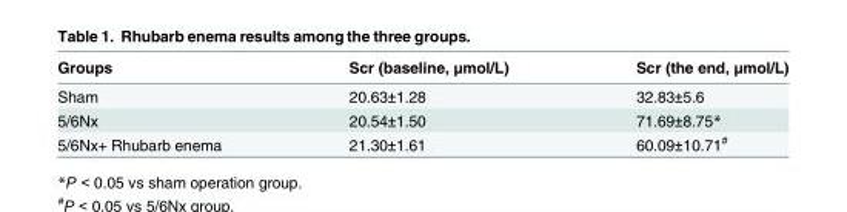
<table><thead><tr><td>Groups</td><td>Scr (baseline, μmol/L)</td><td>Scr (the end, μmol/L)</td></tr></thead><tbody><tr><td>Sham</td><td>20.63±1.28</td><td>32.83±5.6</td></tr><tr><td>5/6Nx</td><td>20.54±1.50</td><td>71.69±8.75*</td></tr><tr><td>5/6Nx+ Rhubarb enema</td><td>21.30±1.61</td><td>60.09±10.71<sup>#</sup></td></tr></tbody></table>